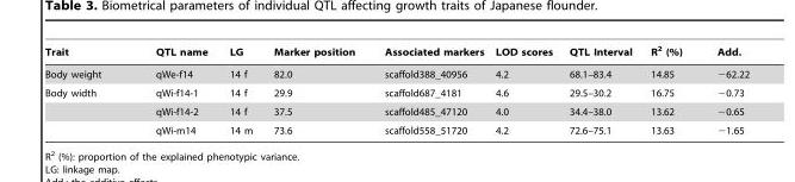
<table><thead><tr><td>Trait</td><td>QTL name</td><td>LG</td><td>Marker position</td><td>Associated markers</td><td>LOD scores</td><td>QTL Interval</td><td>R<sup>2</sup> (%)</td><td>Add.</td></tr></thead><tbody><tr><td>Body weight</td><td>qWe-f14</td><td>14 f</td><td>82.0</td><td>scaffold388_40956</td><td>4.2</td><td>68.1–83.4</td><td>14.85</td><td>−62.22</td></tr><tr><td rowspan="3">Body width</td><td>qWi-f14-1</td><td>14 f</td><td>29.9</td><td>scaffold687_4181</td><td>4.6</td><td>29.5–30.2</td><td>16.75</td><td>−0.73</td></tr><tr><td>qWi-f14-2</td><td>14 f</td><td>37.5</td><td>scaffold485_47120</td><td>4.0</td><td>34.4–38.0</td><td>13.62</td><td>−0.65</td></tr><tr><td>qWi-m14</td><td>14 m</td><td>73.6</td><td>scaffold558_51720</td><td>4.2</td><td>72.6–75.1</td><td>13.63</td><td>−1.65</td></tr></tbody></table>